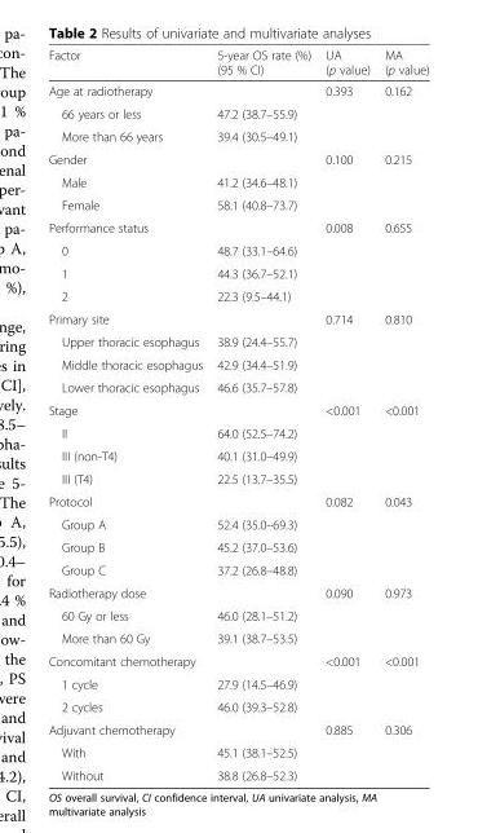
<table><thead><tr><td>Factor</td><td>5-year OS rate (%) (95 % CI)</td><td>UA (p value)</td><td>MA (p value)</td></tr></thead><tbody><tr><td>Age at radiotherapy</td><td></td><td>0.393</td><td>0.162</td></tr><tr><td>66 years or less</td><td>47.2 (38.7–55.9)</td><td></td><td></td></tr><tr><td>More than 66 years</td><td>39.4 (30.5–49.1)</td><td></td><td></td></tr><tr><td>Gender</td><td></td><td>0.100</td><td>0.215</td></tr><tr><td>Male</td><td>41.2 (34.6–48.1)</td><td></td><td></td></tr><tr><td>Female</td><td>58.1 (40.8–73.7)</td><td></td><td></td></tr><tr><td>Performance status</td><td></td><td>0.008</td><td>0.655</td></tr><tr><td>0</td><td>48.7 (33.1–64.6)</td><td></td><td></td></tr><tr><td>1</td><td>44.3 (36.7–52.1)</td><td></td><td></td></tr><tr><td>2</td><td>22.3 (9.5–44.1)</td><td></td><td></td></tr><tr><td>Primary site</td><td></td><td>0.714</td><td>0.810</td></tr><tr><td>Upper thoracic esophagus</td><td>38.9 (24.4–55.7)</td><td></td><td></td></tr><tr><td>Middle thoracic esophagus</td><td>42.9 (34.4–51.9)</td><td></td><td></td></tr><tr><td>Lower thoracic esophagus</td><td>46.6 (35.7–57.8)</td><td></td><td></td></tr><tr><td>Stage</td><td></td><td>&lt;0.001</td><td>&lt;0.001</td></tr><tr><td>II</td><td>64.0 (52.5–74.2)</td><td></td><td></td></tr><tr><td>III (non-T4)</td><td>40.1 (31.0–49.9)</td><td></td><td></td></tr><tr><td>III (T4)</td><td>22.5 (13.7–35.5)</td><td></td><td></td></tr><tr><td>Protocol</td><td></td><td>0.082</td><td>0.043</td></tr><tr><td>Group A</td><td>52.4 (35.0–69.3)</td><td></td><td></td></tr><tr><td>Group B</td><td>45.2 (37.0–53.6)</td><td></td><td></td></tr><tr><td>Group C</td><td>37.2 (26.8–48.8)</td><td></td><td></td></tr><tr><td>Radiotherapy dose</td><td></td><td>0.090</td><td>0.973</td></tr><tr><td>60 Gy or less</td><td>46.0 (28.1–51.2)</td><td></td><td></td></tr><tr><td>More than 60 Gy</td><td>39.1 (38.7–53.5)</td><td></td><td></td></tr><tr><td>Concomitant chemotherapy</td><td></td><td>&lt;0.001</td><td>&lt;0.001</td></tr><tr><td>1 cycle</td><td>27.9 (14.5–46.9)</td><td></td><td></td></tr><tr><td>2 cycles</td><td>46.0 (39.3–52.8)</td><td></td><td></td></tr><tr><td>Adjuvant chemotherapy</td><td></td><td>0.885</td><td>0.306</td></tr><tr><td>With</td><td>45.1 (38.1–52.5)</td><td></td><td></td></tr><tr><td>Without</td><td>38.8 (26.8–52.3)</td><td></td><td></td></tr></tbody></table>